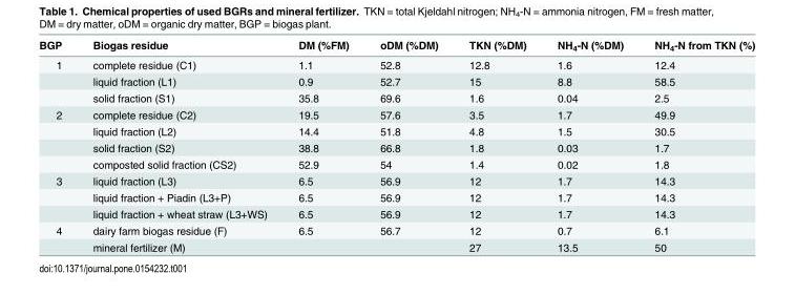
<table><thead><tr><td>BGP</td><td>Biogas residue</td><td>DM (%FM)</td><td>oDM (%DM)</td><td>TKN (%DM)</td><td>NH<sub>4</sub>-N (%DM)</td><td>NH<sub>4</sub>-N from TKN (%)</td></tr></thead><tbody><tr><td rowspan="3">1</td><td>complete residue (C1)</td><td>1.1</td><td>52.8</td><td>12.8</td><td>1.6</td><td>12.4</td></tr><tr><td>liquid fraction (L1)</td><td>0.9</td><td>52.7</td><td>15</td><td>8.8</td><td>58.5</td></tr><tr><td>solid fraction (S1)</td><td>35.8</td><td>69.6</td><td>1.6</td><td>0.04</td><td>2.5</td></tr><tr><td rowspan="4">2</td><td>complete residue (C2)</td><td>19.5</td><td>57.6</td><td>3.5</td><td>1.7</td><td>49.9</td></tr><tr><td>liquid fraction (L2)</td><td>14.4</td><td>51.8</td><td>4.8</td><td>1.5</td><td>30.5</td></tr><tr><td>solid fraction (S2)</td><td>38.8</td><td>66.8</td><td>1.8</td><td>0.03</td><td>1.7</td></tr><tr><td>composted solid fraction (CS2)</td><td>52.9</td><td>54</td><td>1.4</td><td>0.02</td><td>1.8</td></tr><tr><td rowspan="3">3</td><td>liquid fraction (L3)</td><td>6.5</td><td>56.9</td><td>12</td><td>1.7</td><td>14.3</td></tr><tr><td>liquid fraction + Piadin (L3+P)</td><td>6.5</td><td>56.9</td><td>12</td><td>1.7</td><td>14.3</td></tr><tr><td>liquid fraction + wheat straw (L3+WS)</td><td>6.5</td><td>56.9</td><td>12</td><td>1.7</td><td>14.3</td></tr><tr><td rowspan="2">4</td><td>dairy farm biogas residue (F)</td><td>6.5</td><td>56.7</td><td>12</td><td>0.7</td><td>6.1</td></tr><tr><td>mineral fertilizer (M)</td><td></td><td></td><td>27</td><td>13.5</td><td>50</td></tr></tbody></table>